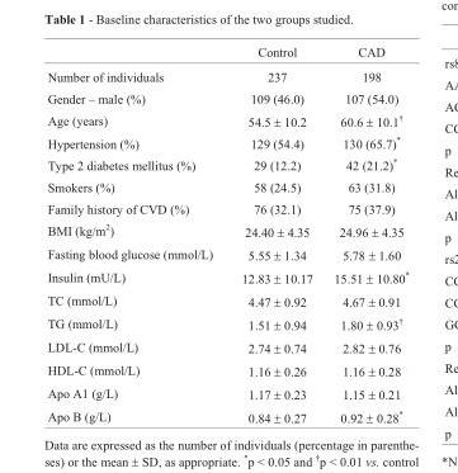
<table><thead><tr><td></td><td>Control</td><td>CAD</td></tr></thead><tbody><tr><td>Number of individuals</td><td>237</td><td>198</td></tr><tr><td>Gender – male (%)</td><td>109 (46.0)</td><td>107 (54.0)</td></tr><tr><td>Age (years)</td><td>54.5 ± 10.2</td><td>60.6 ± 10.1<sup>†</sup></td></tr><tr><td>Hypertension (%)</td><td>129 (54.4)</td><td>130 (65.7)*</td></tr><tr><td>Type 2 diabetes mellitus (%)</td><td>29 (12.2)</td><td>42 (21.2)*</td></tr><tr><td>Smokers (%)</td><td>58 (24.5)</td><td>63 (31.8)</td></tr><tr><td>Family history of CVD (%)</td><td>76 (32.1)</td><td>75 (37.9)</td></tr><tr><td>BMI (kg/m<sup>2</sup>)</td><td>24.40 ± 4.35</td><td>24.96 ± 4.35</td></tr><tr><td>Fasting blood glucose (mmol/L)</td><td>5.55 ± 1.34</td><td>5.78 ± 1.60</td></tr><tr><td>Insulin (mU/L)</td><td>12.83 ± 10.17</td><td>15.51 ± 10.80*</td></tr><tr><td>TC (mmol/L)</td><td>4.47 ± 0.92</td><td>4.67 ± 0.91</td></tr><tr><td>TG (mmol/L)</td><td>1.51 ± 0.94</td><td>1.80 ± 0.93<sup>†</sup></td></tr><tr><td>LDL-C (mmol/L)</td><td>2.74 ± 0.74</td><td>2.82 ± 0.76</td></tr><tr><td>HDL-C (mmol/L)</td><td>1.16 ± 0.26</td><td>1.16 ± 0.28</td></tr><tr><td>Apo A1 (g/L)</td><td>1.17 ± 0.23</td><td>1.15 ± 0.21</td></tr><tr><td>Apo B (g/L)</td><td>0.84 ± 0.27</td><td>0.92 ± 0.28*</td></tr></tbody></table>